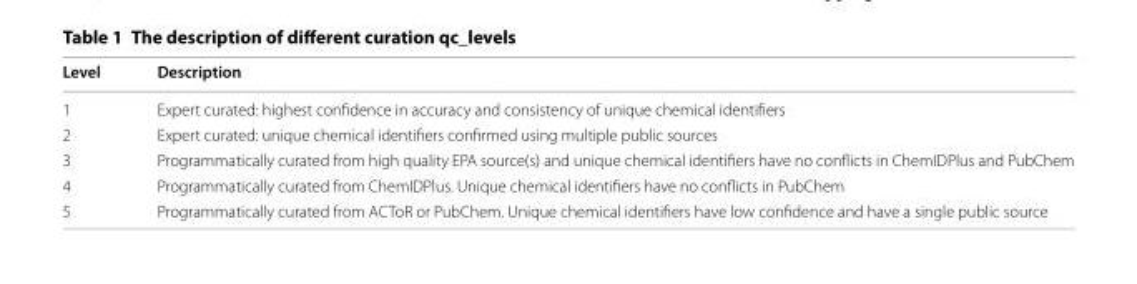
<table><thead><tr><td>Level</td><td>Description</td></tr></thead><tbody><tr><td>1</td><td>Expert curated: highest confidence in accuracy and consistency of unique chemical identifiers</td></tr><tr><td>2</td><td>Expert curated: unique chemical identifiers confirmed using multiple public sources</td></tr><tr><td>3</td><td>Programmatically curated from high quality EPA source(s) and unique chemical identifiers have no conflicts in ChemIDPlus and PubChem</td></tr><tr><td>4</td><td>Programmatically curated from ChemIDPlus. Unique chemical identifiers have no conflicts in PubChem</td></tr><tr><td>5</td><td>Programmatically curated from ACToR or PubChem. Unique chemical identifiers have low confidence and have a single public source</td></tr></tbody></table>